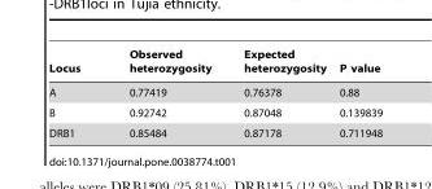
<table><thead><tr><td>Locus</td><td>Observed heterozygosity</td><td>Expected heterozygosity</td><td>P value</td></tr></thead><tbody><tr><td>A</td><td>0.77419</td><td>0.76378</td><td>0.88</td></tr><tr><td>B</td><td>0.92742</td><td>0.87048</td><td>0.139839</td></tr><tr><td>DRB1</td><td>0.85484</td><td>0.87178</td><td>0.711948</td></tr></tbody></table>